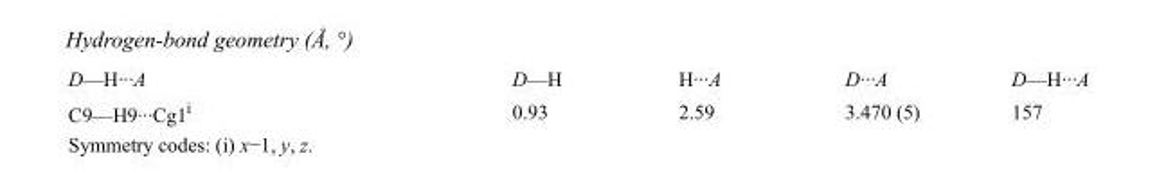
<table><tbody><tr><td>D—H···A</td><td>D—H</td><td>H···A</td><td>D···A</td><td>D—H···A</td></tr><tr><td>C9—H9···Cg1<sup>i</sup></td><td>0.93</td><td>2.59</td><td>3.470 (5)</td><td>157</td></tr></tbody></table>